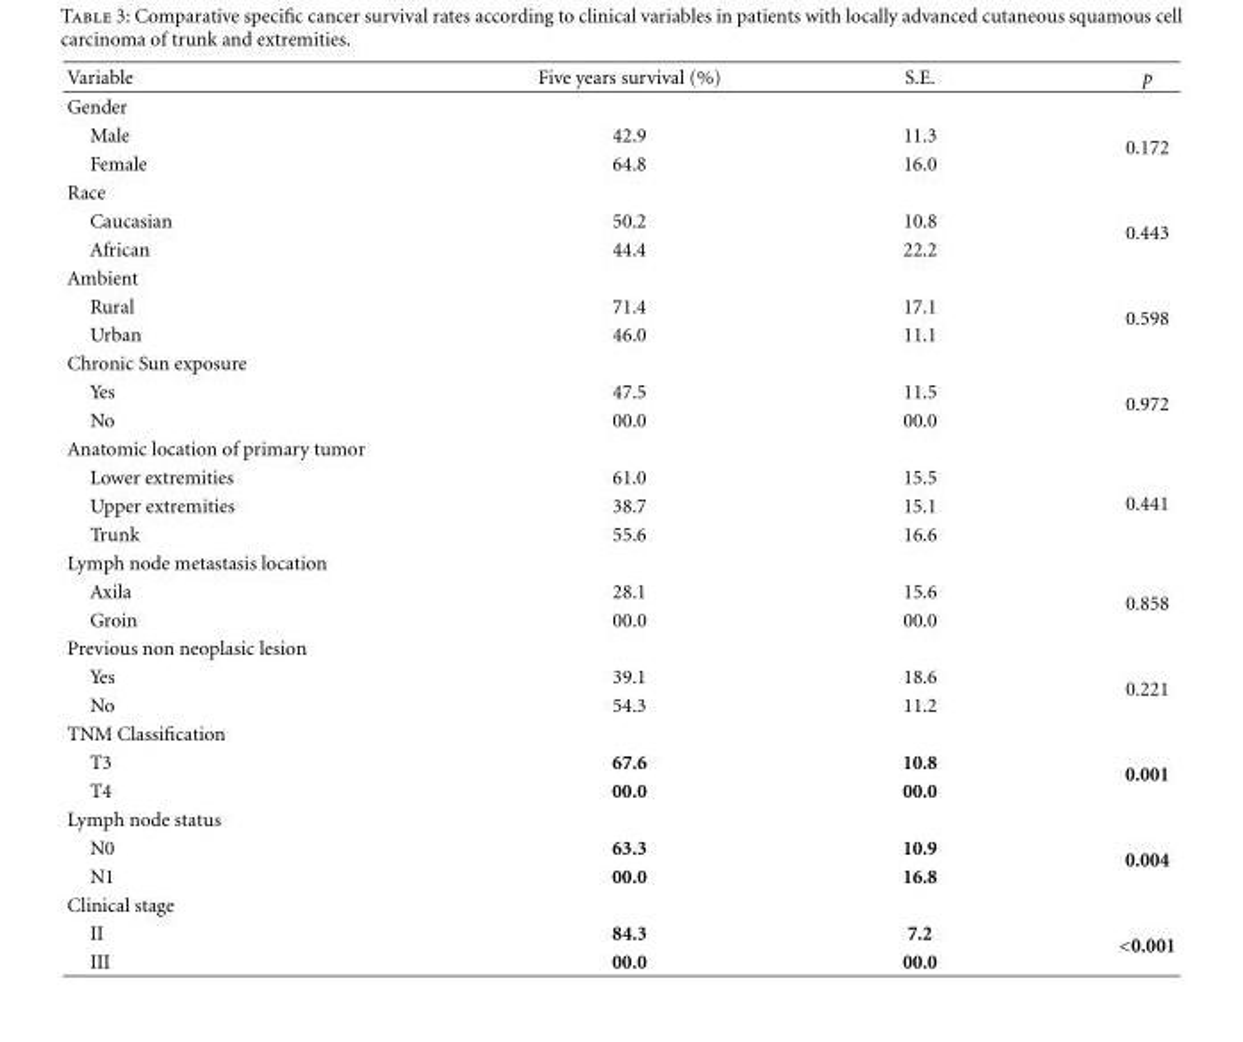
<table><thead><tr><td>Variable</td><td>Five years survival (%)</td><td>S.E.</td><td>p</td></tr></thead><tbody><tr><td colspan="4">Gender</td></tr><tr><td>Male</td><td>42.9</td><td>11.3</td><td rowspan="2">0.172</td></tr><tr><td>Female</td><td>64.8</td><td>16.0</td></tr><tr><td colspan="4">Race</td></tr><tr><td>Caucasian</td><td>50.2</td><td>10.8</td><td rowspan="2">0.443</td></tr><tr><td>African</td><td>44.4</td><td>22.2</td></tr><tr><td colspan="4">Ambient</td></tr><tr><td>Rural</td><td>71.4</td><td>17.1</td><td rowspan="2">0.598</td></tr><tr><td>Urban</td><td>46.0</td><td>11.1</td></tr><tr><td colspan="4">Chronic Sun exposure</td></tr><tr><td>Yes</td><td>47.5</td><td>11.5</td><td rowspan="2">0.972</td></tr><tr><td>No</td><td>00.0</td><td>00.0</td></tr><tr><td colspan="4">Anatomic location of primary tumor</td></tr><tr><td>Lower extremities</td><td>61.0</td><td>15.5</td><td rowspan="3">0.441</td></tr><tr><td>Upper extremities</td><td>38.7</td><td>15.1</td></tr><tr><td>Trunk</td><td>55.6</td><td>16.6</td></tr><tr><td colspan="4">Lymph node metastasis location</td></tr><tr><td>Axila</td><td>28.1</td><td>15.6</td><td rowspan="2">0.858</td></tr><tr><td>Groin</td><td>00.0</td><td>00.0</td></tr><tr><td colspan="4">Previous non neoplasic lesion</td></tr><tr><td>Yes</td><td>39.1</td><td>18.6</td><td rowspan="2">0.221</td></tr><tr><td>No</td><td>54.3</td><td>11.2</td></tr><tr><td colspan="4">TNM Classification</td></tr><tr><td>T3</td><td>67.6</td><td>10.8</td><td rowspan="2">0.001</td></tr><tr><td>T4</td><td>00.0</td><td>00.0</td></tr><tr><td colspan="4">Lymph node status</td></tr><tr><td>N0</td><td>63.3</td><td>10.9</td><td rowspan="2">0.004</td></tr><tr><td>N1</td><td>00.0</td><td>16.8</td></tr><tr><td colspan="4">Clinical stage</td></tr><tr><td>II</td><td>84.3</td><td>7.2</td><td rowspan="2">&lt;0.001</td></tr><tr><td>III</td><td>00.0</td><td>00.0</td></tr></tbody></table>